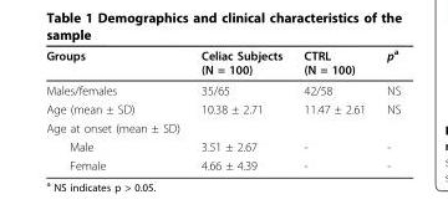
<table><thead><tr><td>Groups</td><td>Celiac Subjects (N = 100)</td><td>CTRL (N = 100)</td><td>p<sup>a</sup></td></tr></thead><tbody><tr><td>Males/females</td><td>35/65</td><td>42/58</td><td>NS</td></tr><tr><td>Age (mean ± SD)</td><td>10.38 ± 2.71</td><td>11.47 ± 2.61</td><td>NS</td></tr><tr><td colspan="4">Age at onset (mean ± SD)</td></tr><tr><td>Male</td><td>3.51 ± 2.67</td><td>-</td><td>-</td></tr><tr><td>Female</td><td>4.66 ± 4.39</td><td>-</td><td>-</td></tr></tbody></table>